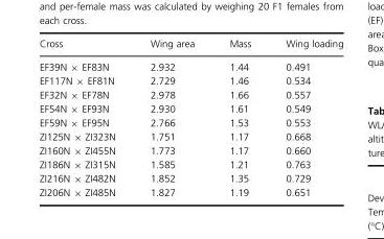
<table><thead><tr><td>Cross</td><td>Wing area</td><td>Mass</td><td>Wing loading</td></tr></thead><tbody><tr><td>EF39N × EF83N</td><td>2.932</td><td>1.44</td><td>0.491</td></tr><tr><td>EF117N × EF81N</td><td>2.729</td><td>1.46</td><td>0.534</td></tr><tr><td>EF32N × EF78N</td><td>2.978</td><td>1.66</td><td>0.557</td></tr><tr><td>EF54N × EF93N</td><td>2.930</td><td>1.61</td><td>0.549</td></tr><tr><td>EF59N × EF95N</td><td>2.766</td><td>1.53</td><td>0.553</td></tr><tr><td>ZI125N × ZI323N</td><td>1.751</td><td>1.17</td><td>0.668</td></tr><tr><td>ZI160N × ZI455N</td><td>1.773</td><td>1.17</td><td>0.660</td></tr><tr><td>ZI186N × ZI315N</td><td>1.585</td><td>1.21</td><td>0.763</td></tr><tr><td>ZI216N × ZI482N</td><td>1.852</td><td>1.35</td><td>0.729</td></tr><tr><td>ZI206N × ZI485N</td><td>1.827</td><td>1.19</td><td>0.651</td></tr></tbody></table>